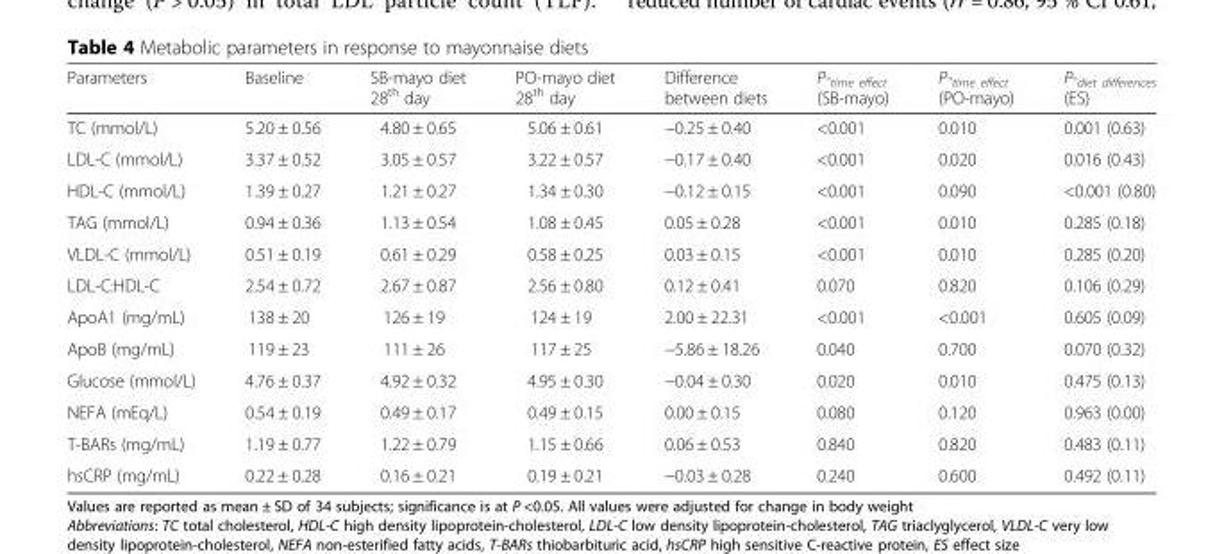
<table><thead><tr><td>Parameters</td><td>Baseline</td><td>SB-mayo diet 28<sup>th</sup> day</td><td>PO-mayo diet 28<sup>th</sup> day</td><td>Difference between diets</td><td>P-<sub>time effect</sub> (SB-mayo)</td><td>P-<sub>time effect</sub> (PO-mayo)</td><td>P-<sub>diet differences</sub> (ES)</td></tr></thead><tbody><tr><td>TC (mmol/L)</td><td>5.20 ± 0.56</td><td>4.80 ± 0.65</td><td>5.06 ± 0.61</td><td>−0.25 ± 0.40</td><td>&lt;0.001</td><td>0.010</td><td>0.001 (0.63)</td></tr><tr><td>LDL-C (mmol/L)</td><td>3.37 ± 0.52</td><td>3.05 ± 0.57</td><td>3.22 ± 0.57</td><td>−0.17 ± 0.40</td><td>&lt;0.001</td><td>0.020</td><td>0.016 (0.43)</td></tr><tr><td>HDL-C (mmol/L)</td><td>1.39 ± 0.27</td><td>1.21 ± 0.27</td><td>1.34 ± 0.30</td><td>−0.12 ± 0.15</td><td>&lt;0.001</td><td>0.090</td><td>&lt;0.001 (0.80)</td></tr><tr><td>TAG (mmol/L)</td><td>0.94 ± 0.36</td><td>1.13 ± 0.54</td><td>1.08 ± 0.45</td><td>0.05 ± 0.28</td><td>&lt;0.001</td><td>0.010</td><td>0.285 (0.18)</td></tr><tr><td>VLDL-C (mmol/L)</td><td>0.51 ± 0.19</td><td>0.61 ± 0.29</td><td>0.58 ± 0.25</td><td>0.03 ± 0.15</td><td>&lt;0.001</td><td>0.010</td><td>0.285 (0.20)</td></tr><tr><td>LDL-C:HDL-C</td><td>2.54 ± 0.72</td><td>2.67 ± 0.87</td><td>2.56 ± 0.80</td><td>0.12 ± 0.41</td><td>0.070</td><td>0.820</td><td>0.106 (0.29)</td></tr><tr><td>ApoA1 (mg/mL)</td><td>138 ± 20</td><td>126 ± 19</td><td>124 ± 19</td><td>2.00 ± 22.31</td><td>&lt;0.001</td><td>&lt;0.001</td><td>0.605 (0.09)</td></tr><tr><td>ApoB (mg/mL)</td><td>119 ± 23</td><td>111 ± 26</td><td>117 ± 25</td><td>−5.86 ± 18.26</td><td>0.040</td><td>0.700</td><td>0.070 (0.32)</td></tr><tr><td>Glucose (mmol/L)</td><td>4.76 ± 0.37</td><td>4.92 ± 0.32</td><td>4.95 ± 0.30</td><td>−0.04 ± 0.30</td><td>0.020</td><td>0.010</td><td>0.475 (0.13)</td></tr><tr><td>NEFA (mEq/L)</td><td>0.54 ± 0.19</td><td>0.49 ± 0.17</td><td>0.49 ± 0.15</td><td>0.00 ± 0.15</td><td>0.080</td><td>0.120</td><td>0.963 (0.00)</td></tr><tr><td>T-BARs (mg/mL)</td><td>1.19 ± 0.77</td><td>1.22 ± 0.79</td><td>1.15 ± 0.66</td><td>0.06 ± 0.53</td><td>0.840</td><td>0.820</td><td>0.483 (0.11)</td></tr><tr><td>hsCRP (mg/mL)</td><td>0.22 ± 0.28</td><td>0.16 ± 0.21</td><td>0.19 ± 0.21</td><td>−0.03 ± 0.28</td><td>0.240</td><td>0.600</td><td>0.492 (0.11)</td></tr></tbody></table>